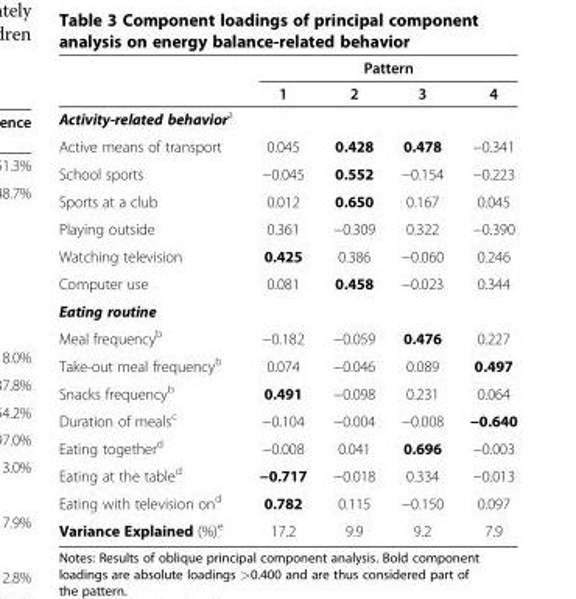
<table><thead><tr><td rowspan="2"></td><td colspan="4">Pattern</td></tr><tr><td>1</td><td>2</td><td>3</td><td>4</td></tr></thead><tbody><tr><td colspan="5">Activity-related behavior<sup>a</sup></td></tr><tr><td>Active means of transport</td><td>0.045</td><td>0.428</td><td>0.478</td><td>−0.341</td></tr><tr><td>School sports</td><td>−0.045</td><td>0.552</td><td>−0.154</td><td>−0.223</td></tr><tr><td>Sports at a club</td><td>0.012</td><td>0.650</td><td>0.167</td><td>0.045</td></tr><tr><td>Playing outside</td><td>0.361</td><td>−0.309</td><td>0.322</td><td>−0.390</td></tr><tr><td>Watching television</td><td>0.425</td><td>0.386</td><td>−0.060</td><td>0.246</td></tr><tr><td>Computer use</td><td>0.081</td><td>0.458</td><td>−0.023</td><td>0.344</td></tr><tr><td colspan="5">Eating routine</td></tr><tr><td>Meal frequency<sup>b</sup></td><td>−0.182</td><td>−0.059</td><td>0.476</td><td>0.227</td></tr><tr><td>Take-out meal frequency<sup>b</sup></td><td>0.074</td><td>−0.046</td><td>0.089</td><td>0.497</td></tr><tr><td>Snacks frequency<sup>b</sup></td><td>0.491</td><td>−0.098</td><td>0.231</td><td>0.064</td></tr><tr><td>Duration of meals<sup>c</sup></td><td>−0.104</td><td>−0.004</td><td>−0.008</td><td>−0.640</td></tr><tr><td>Eating together<sup>d</sup></td><td>−0.008</td><td>0.041</td><td>0.696</td><td>−0.003</td></tr><tr><td>Eating at the table<sup>d</sup></td><td>−0.717</td><td>−0.018</td><td>0.334</td><td>−0.013</td></tr><tr><td>Eating with television on<sup>d</sup></td><td>0.782</td><td>0.115</td><td>−0.150</td><td>0.097</td></tr><tr><td>Variance Explained (%)<sup>e</sup></td><td>17.2</td><td>9.9</td><td>9.2</td><td>7.9</td></tr></tbody></table>